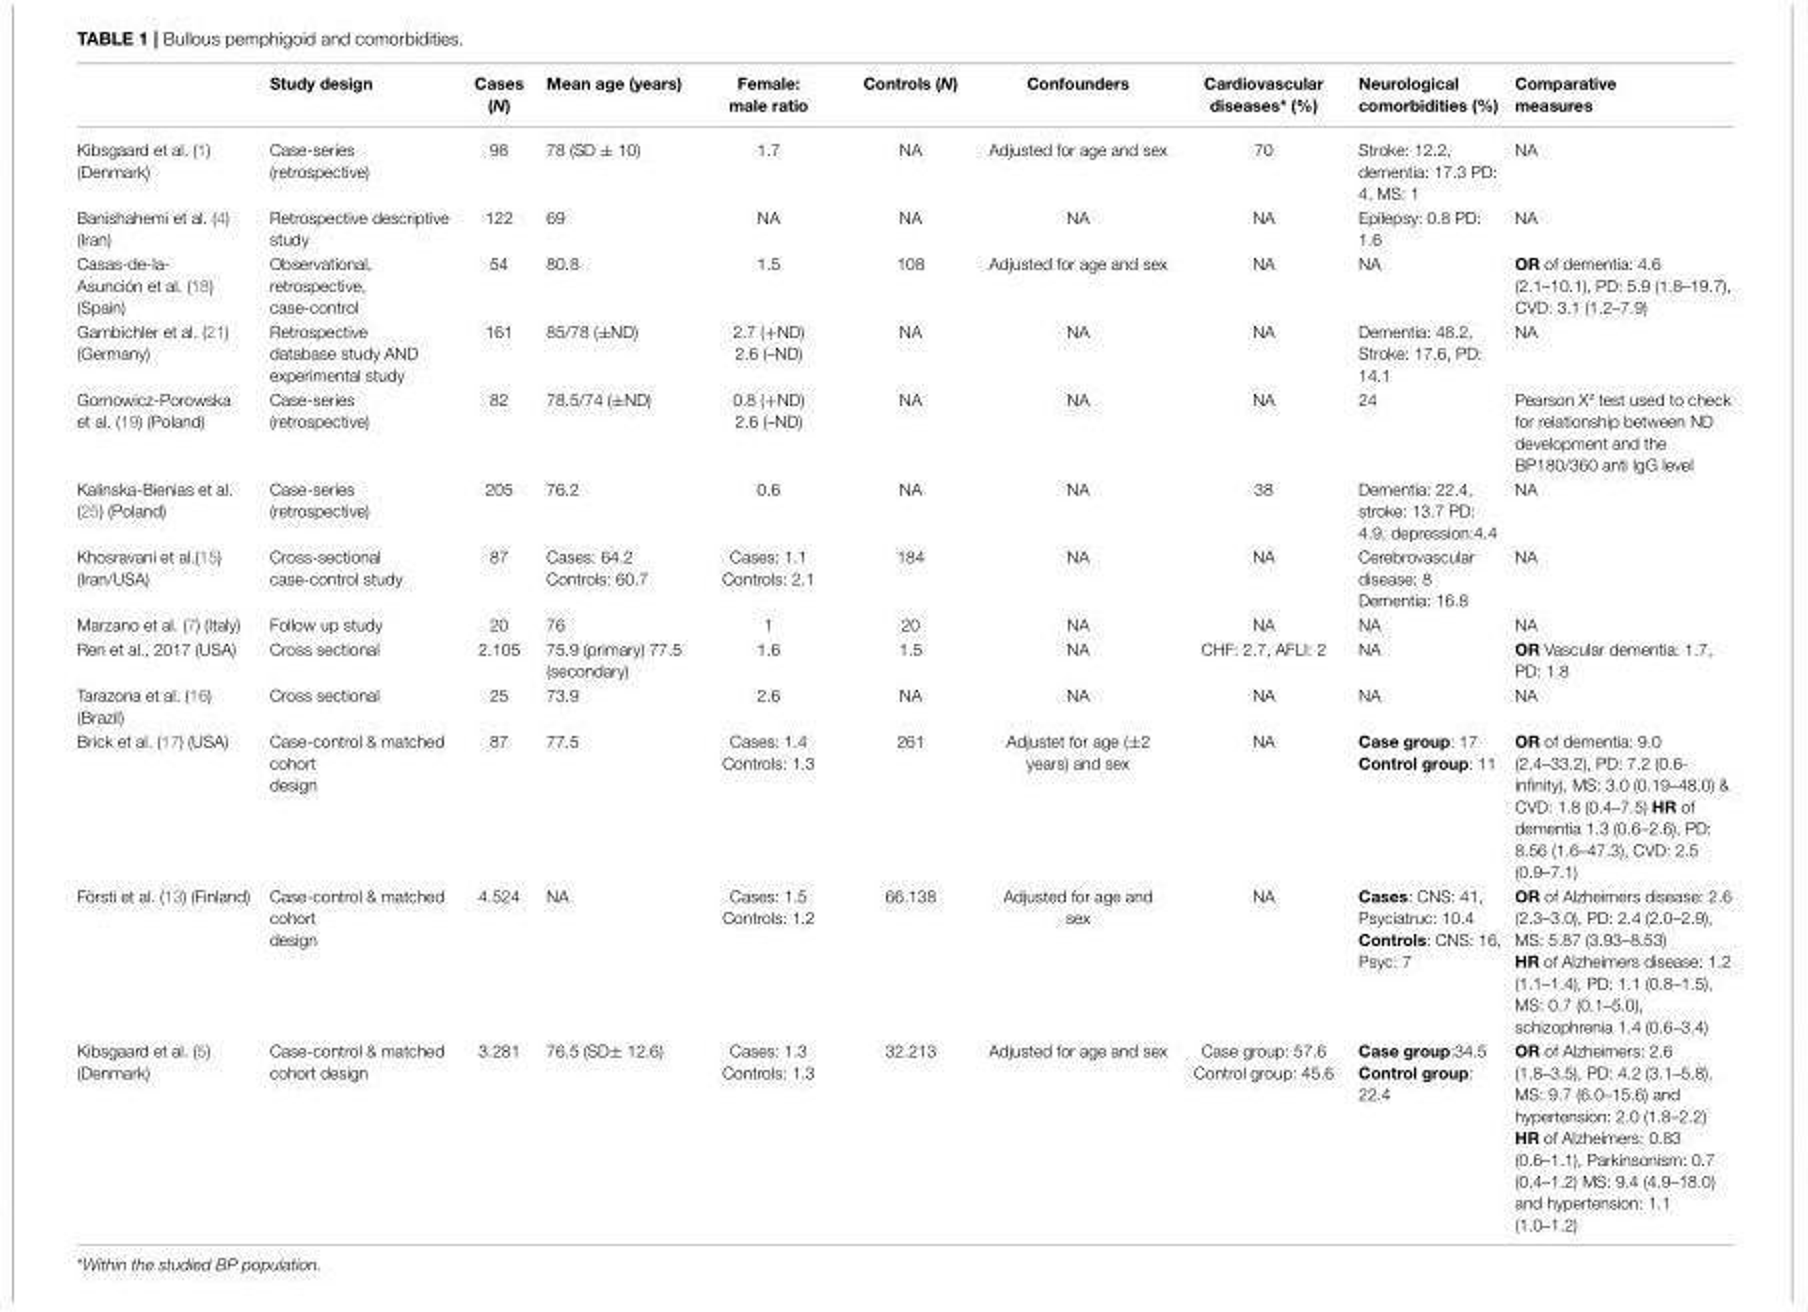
<table><thead><tr><td></td><td>Study design</td><td>Cases (N)</td><td>Mean age (years)</td><td>Female: male ratio</td><td>Controls (N)</td><td>Confounders</td><td>Cardiovascular diseases* (%)</td><td>Neurological comorbidities (%)</td><td>Comparative measures</td></tr></thead><tbody><tr><td>Kibsgaard et al. (1) (Denmark)</td><td>Case-series (retrospective)</td><td>98</td><td>78 (SD ± 10)</td><td>1.7</td><td>NA</td><td>Adjusted for age and sex</td><td>70</td><td>Stroke: 12.2, dementia: 17.3 PD: 4, MS: 1</td><td>NA</td></tr><tr><td>Banishahemi et al. (4) (Iran)</td><td>Retrospective descriptive study</td><td>122</td><td>69</td><td>NA</td><td>NA</td><td>NA</td><td>NA</td><td>Epilepsy: 0.8 PD: 1.6</td><td>NA</td></tr><tr><td>Casas-de-la- Asunción et al. (18) (Spain)</td><td>Observational, retrospective, case-control</td><td>54</td><td>80.8</td><td>1.5</td><td>108</td><td>Adjusted for age and sex</td><td>NA</td><td>NA</td><td>OR of dementia: 4.6 (2.1–10.1), PD: 5.9 (1.8–19.7), CVD: 3.1 (1.2–7.9)</td></tr><tr><td>Gambichler et al. (21) (Germany)</td><td>Retrospective database study AND experimental study</td><td>161</td><td>85/78 (±ND)</td><td>2.7 (+ND) 2.6 (–ND)</td><td>NA</td><td>NA</td><td>NA</td><td>Dementia: 48.2, Stroke: 17.6, PD: 14.1</td><td>NA</td></tr><tr><td>Gornowicz-Porowska et al. (19) (Poland)</td><td>Case-series (retrospective)</td><td>82</td><td>78.5/74 (±ND)</td><td>0.8 (+ND) 2.6 (–ND)</td><td>NA</td><td>NA</td><td>NA</td><td>24</td><td>Pearson X² test used to check for relationship between ND development and the BP180/360 anti IgG level</td></tr><tr><td>Kalinska-Bienias et al. (25) (Poland)</td><td>Case-series (retrospective)</td><td>205</td><td>76.2</td><td>0.6</td><td>NA</td><td>NA</td><td>38</td><td>Dementia: 22.4, stroke: 13.7 PD: 4.9, depression:4.4</td><td>NA</td></tr><tr><td>Khosravani et al.(15) (Iran/USA)</td><td>Cross-sectional case-control study</td><td>87</td><td>Cases: 64.2 Controls: 60.7</td><td>Cases: 1.1 Controls: 2.1</td><td>184</td><td>NA</td><td>NA</td><td>Cerebrovascular disease: 8 Dementia: 16.8</td><td>NA</td></tr><tr><td>Marzano et al. (7) (Italy)</td><td>Follow up study</td><td>20</td><td>76</td><td>1</td><td>20</td><td>NA</td><td>NA</td><td>NA</td><td>NA</td></tr><tr><td>Ren et al., 2017 (USA)</td><td>Cross sectional</td><td>2.105</td><td>75.9 (primary) 77.5 (secondary)</td><td>1.6</td><td>1.5</td><td>NA</td><td>CHF: 2.7, AFLI: 2</td><td>NA</td><td>OR Vascular dementia: 1.7, PD: 1.8</td></tr><tr><td>Tarazona et al. (16) (Brazil)</td><td>Cross sectional</td><td>25</td><td>73.9</td><td>2.6</td><td>NA</td><td>NA</td><td>NA</td><td>NA</td><td>NA</td></tr><tr><td>Brick et al. (17) (USA)</td><td>Case-control &amp; matched cohort design</td><td>87</td><td>77.5</td><td>Cases: 1.4 Controls: 1.3</td><td>261</td><td>Adjustet for age (±2 years) and sex</td><td>NA</td><td>Case group: 17 Control group: 11</td><td>OR of dementia: 9.0 (2.4–33.2), PD: 7.2 (0.6- infinity), MS: 3.0 (0.19–48.0) &amp; CVD: 1.8 (0.4–7.5) HR of dementia 1.3 (0.6–2.6), PD: 8.56 (1.6–47.3), CVD: 2.5 (0.9–7.1)</td></tr><tr><td>Försti et al. (13) (Finland)</td><td>Case-control &amp; matched cohort design</td><td>4.524</td><td>NA</td><td>Cases: 1.5 Controls: 1.2</td><td>66.138</td><td>Adjusted for age and sex</td><td>NA</td><td>Cases: CNS: 41, Psyciatruc: 10.4 Controls: CNS: 16, Psyc: 7</td><td>OR of Alzheimers disease: 2.6 (2.3–3.0), PD: 2.4 (2.0–2.9), MS: 5.87 (3.93–8.53) HR of Alzheimers disease: 1.2 (1.1–1.4), PD: 1.1 (0.8–1.5), MS: 0.7 (0.1–5.0), schizophrenia 1.4 (0.6–3.4)</td></tr><tr><td>Kibsgaard et al. (5) (Denmark)</td><td>Case-control &amp; matched cohort design</td><td>3.281</td><td>76.5 (SD± 12.6)</td><td>Cases: 1.3 Controls: 1.3</td><td>32.213</td><td>Adjusted for age and sex</td><td>Case group: 57.6 Control group: 45.6</td><td>Case group:34.5 Control group: 22.4</td><td>OR of Alzheimers: 2.6 (1.8–3.5), PD: 4.2 (3.1–5.8), MS: 9.7 (6.0–15.6) and hypertension: 2.0 (1.8–2.2) HR of Alzheimers: 0.83 (0.6–1.1), Parkinsonism: 0.7 (0.4–1.2) MS: 9.4 (4.9–18.0) and hypertension: 1.1 (1.0–1.2)</td></tr></tbody></table>